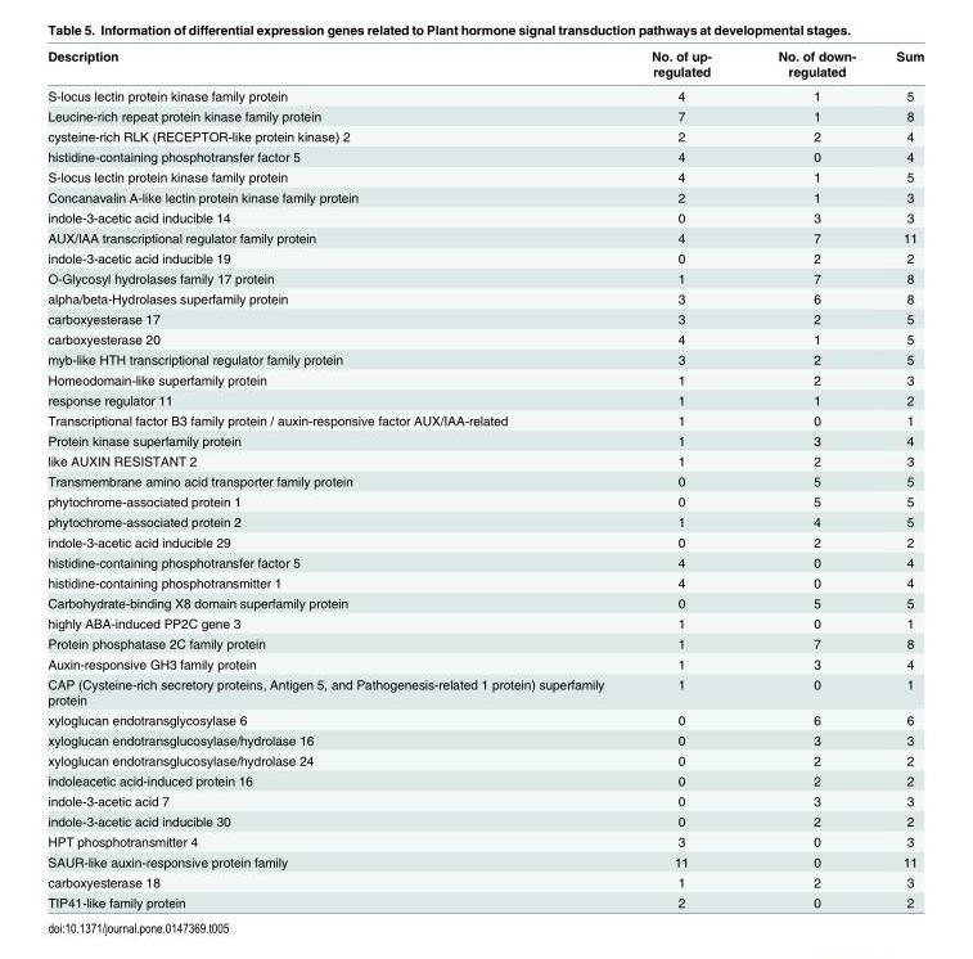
<table><thead><tr><td>Description</td><td>No. of up- regulated</td><td>No. of down- regulated</td><td>Sum</td></tr></thead><tbody><tr><td>S-locus lectin protein kinase family protein</td><td>4</td><td>1</td><td>5</td></tr><tr><td>Leucine-rich repeat protein kinase family protein</td><td>7</td><td>1</td><td>8</td></tr><tr><td>cysteine-rich RLK (RECEPTOR-like protein kinase) 2</td><td>2</td><td>2</td><td>4</td></tr><tr><td>histidine-containing phosphotransfer factor 5</td><td>4</td><td>0</td><td>4</td></tr><tr><td>S-locus lectin protein kinase family protein</td><td>4</td><td>1</td><td>5</td></tr><tr><td>Concanavalin A-like lectin protein kinase family protein</td><td>2</td><td>1</td><td>3</td></tr><tr><td>indole-3-acetic acid inducible 14</td><td>0</td><td>3</td><td>3</td></tr><tr><td>AUX/IAA transcriptional regulator family protein</td><td>4</td><td>7</td><td>11</td></tr><tr><td>indole-3-acetic acid inducible 19</td><td>0</td><td>2</td><td>2</td></tr><tr><td>O-Glycosyl hydrolases family 17 protein</td><td>1</td><td>7</td><td>8</td></tr><tr><td>alpha/beta-Hydrolases superfamily protein</td><td>3</td><td>6</td><td>8</td></tr><tr><td>carboxyesterase 17</td><td>3</td><td>2</td><td>5</td></tr><tr><td>carboxyesterase 20</td><td>4</td><td>1</td><td>5</td></tr><tr><td>myb-like HTH transcriptional regulator family protein</td><td>3</td><td>2</td><td>5</td></tr><tr><td>Homeodomain-like superfamily protein</td><td>1</td><td>2</td><td>3</td></tr><tr><td>response regulator 11</td><td>1</td><td>1</td><td>2</td></tr><tr><td>Transcriptional factor B3 family protein / auxin-responsive factor AUX/IAA-related</td><td>1</td><td>0</td><td>1</td></tr><tr><td>Protein kinase superfamily protein</td><td>1</td><td>3</td><td>4</td></tr><tr><td>like AUXIN RESISTANT 2</td><td>1</td><td>2</td><td>3</td></tr><tr><td>Transmembrane amino acid transporter family protein</td><td>0</td><td>5</td><td>5</td></tr><tr><td>phytochrome-associated protein 1</td><td>0</td><td>5</td><td>5</td></tr><tr><td>phytochrome-associated protein 2</td><td>1</td><td>4</td><td>5</td></tr><tr><td>indole-3-acetic acid inducible 29</td><td>0</td><td>2</td><td>2</td></tr><tr><td>histidine-containing phosphotransfer factor 5</td><td>4</td><td>0</td><td>4</td></tr><tr><td>histidine-containing phosphotransmitter 1</td><td>4</td><td>0</td><td>4</td></tr><tr><td>Carbohydrate-binding X8 domain superfamily protein</td><td>0</td><td>5</td><td>5</td></tr><tr><td>highly ABA-induced PP2C gene 3</td><td>1</td><td>0</td><td>1</td></tr><tr><td>Protein phosphatase 2C family protein</td><td>1</td><td>7</td><td>8</td></tr><tr><td>Auxin-responsive GH3 family protein</td><td>1</td><td>3</td><td>4</td></tr><tr><td>CAP (Cysteine-rich secretory proteins, Antigen 5, and Pathogenesis-related 1 protein) superfamily protein</td><td>1</td><td>0</td><td>1</td></tr><tr><td>xyloglucan endotransglycosylase 6</td><td>0</td><td>6</td><td>6</td></tr><tr><td>xyloglucan endotransglucosylase/hydrolase 16</td><td>0</td><td>3</td><td>3</td></tr><tr><td>xyloglucan endotransglucosylase/hydrolase 24</td><td>0</td><td>2</td><td>2</td></tr><tr><td>indoleacetic acid-induced protein 16</td><td>0</td><td>2</td><td>2</td></tr><tr><td>indole-3-acetic acid 7</td><td>0</td><td>3</td><td>3</td></tr><tr><td>indole-3-acetic acid inducible 30</td><td>0</td><td>2</td><td>2</td></tr><tr><td>HPT phosphotransmitter 4</td><td>3</td><td>0</td><td>3</td></tr><tr><td>SAUR-like auxin-responsive protein family</td><td>11</td><td>0</td><td>11</td></tr><tr><td>carboxyesterase 18</td><td>1</td><td>2</td><td>3</td></tr><tr><td>TIP41-like family protein</td><td>2</td><td>0</td><td>2</td></tr></tbody></table>